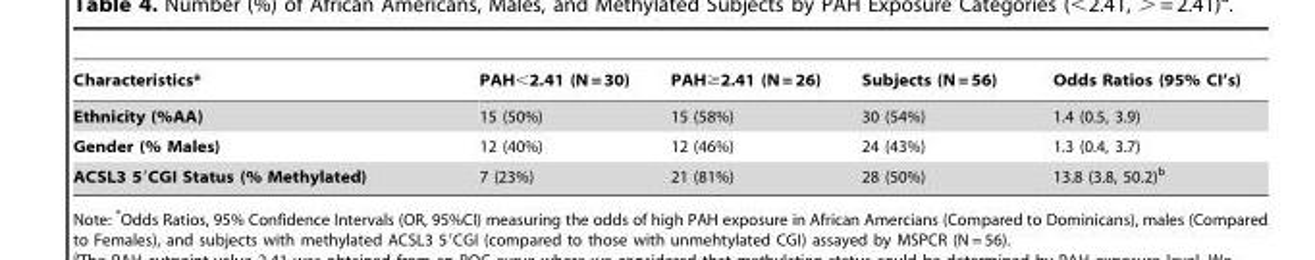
<table><thead><tr><td>Characteristics*</td><td>PAH&lt;2.41 (N = 30)</td><td>PAH≥2.41 (N = 26)</td><td>Subjects (N = 56)</td><td>Odds Ratios (95% CI’s)</td></tr></thead><tbody><tr><td>Ethnicity (%AA)</td><td>15 (50%)</td><td>15 (58%)</td><td>30 (54%)</td><td>1.4 (0.5, 3.9)</td></tr><tr><td>Gender (% Males)</td><td>12 (40%)</td><td>12 (46%)</td><td>24 (43%)</td><td>1.3 (0.4, 3.7)</td></tr><tr><td>ACSL3 5′CGI Status (% Methylated)</td><td>7 (23%)</td><td>21 (81%)</td><td>28 (50%)</td><td>13.8 (3.8, 50.2)<sup>b</sup></td></tr></tbody></table>